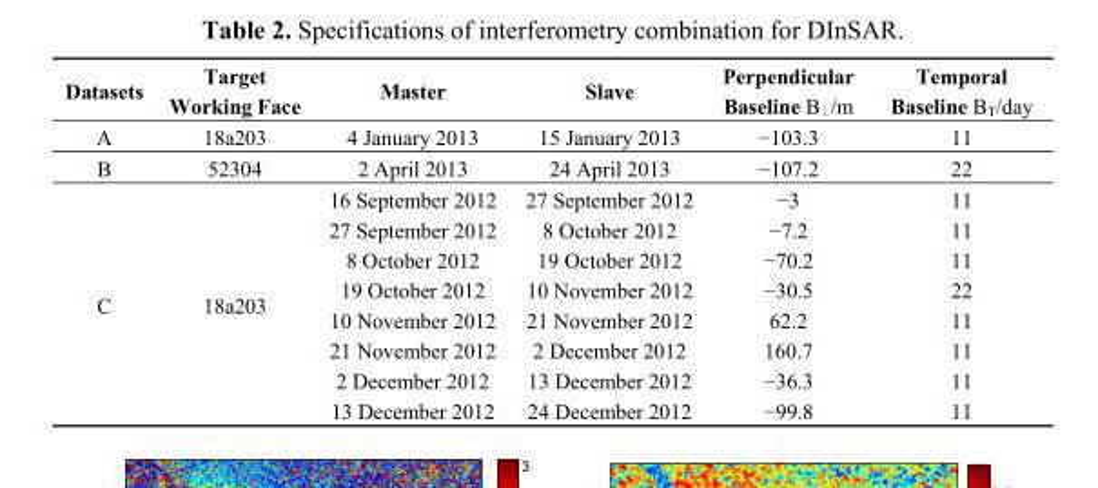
<table><thead><tr><td>Datasets</td><td>Target Working Face</td><td>Master</td><td>Slave</td><td>Perpendicular Baseline B<sub>⊥</sub>/m</td><td>Temporal Baseline B<sub>T</sub>/day</td></tr></thead><tbody><tr><td>A</td><td>18a203</td><td>4 January 2013</td><td>15 January 2013</td><td>−103.3</td><td>11</td></tr><tr><td>B</td><td>52304</td><td>2 April 2013</td><td>24 April 2013</td><td>−107.2</td><td>22</td></tr><tr><td rowspan="8">C</td><td rowspan="8">18a203</td><td>16 September 2012</td><td>27 September 2012</td><td>−3</td><td>11</td></tr><tr><td>27 September 2012</td><td>8 October 2012</td><td>−7.2</td><td>11</td></tr><tr><td>8 October 2012</td><td>19 October 2012</td><td>−70.2</td><td>11</td></tr><tr><td>19 October 2012</td><td>10 November 2012</td><td>−30.5</td><td>22</td></tr><tr><td>10 November 2012</td><td>21 November 2012</td><td>62.2</td><td>11</td></tr><tr><td>21 November 2012</td><td>2 December 2012</td><td>160.7</td><td>11</td></tr><tr><td>2 December 2012</td><td>13 December 2012</td><td>−36.3</td><td>11</td></tr><tr><td>13 December 2012</td><td>24 December 2012</td><td>−99.8</td><td>11</td></tr></tbody></table>